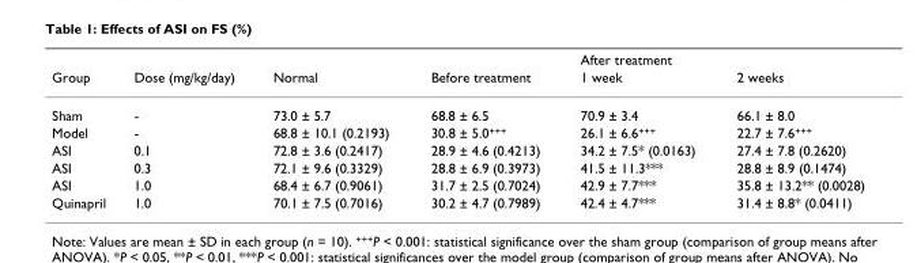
<table><thead><tr><td rowspan="2">Group</td><td rowspan="2">Dose (mg/kg/day)</td><td rowspan="2">Normal</td><td rowspan="2">Before treatment</td><td colspan="2">After treatment</td></tr><tr><td>1 week</td><td>2 weeks</td></tr></thead><tbody><tr><td>Sham</td><td>-</td><td>73.0 ± 5.7</td><td>68.8 ± 6.5</td><td>70.9 ± 3.4</td><td>66.1 ± 8.0</td></tr><tr><td>Model</td><td>-</td><td>68.8 ± 10.1 (0.2193)</td><td>30.8 ± 5.0<sup>+++</sup></td><td>26.1 ± 6.6<sup>+++</sup></td><td>22.7 ± 7.6<sup>+++</sup></td></tr><tr><td>ASI</td><td>0.1</td><td>72.8 ± 3.6 (0.2417)</td><td>28.9 ± 4.6 (0.4213)</td><td>34.2 ± 7.5* (0.0163)</td><td>27.4 ± 7.8 (0.2620)</td></tr><tr><td>ASI</td><td>0.3</td><td>72.1 ± 9.6 (0.3329)</td><td>28.8 ± 6.9 (0.3973)</td><td>41.5 ± 11.3***</td><td>28.8 ± 8.9 (0.1474)</td></tr><tr><td>ASI</td><td>1.0</td><td>68.4 ± 6.7 (0.9061)</td><td>31.7 ± 2.5 (0.7024)</td><td>42.9 ± 7.7***</td><td>35.8 ± 13.2** (0.0028)</td></tr><tr><td>Quinapril</td><td>1.0</td><td>70.1 ± 7.5 (0.7016)</td><td>30.2 ± 4.7 (0.7989)</td><td>42.4 ± 4.7***</td><td>31.4 ± 8.8* (0.0411)</td></tr></tbody></table>